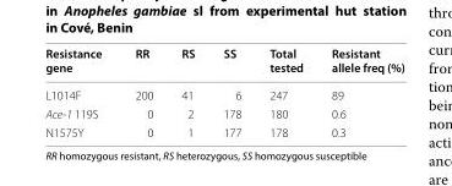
<table><thead><tr><td>Resistance gene</td><td>RR</td><td>RS</td><td>SS</td><td>Total tested</td><td>Resistant allele freq (%)</td></tr></thead><tbody><tr><td>L1014F</td><td>200</td><td>41</td><td>6</td><td>247</td><td>89</td></tr><tr><td>Ace-1 119S</td><td>0</td><td>2</td><td>178</td><td>180</td><td>0.6</td></tr><tr><td>N1575Y</td><td>0</td><td>1</td><td>177</td><td>178</td><td>0.3</td></tr></tbody></table>